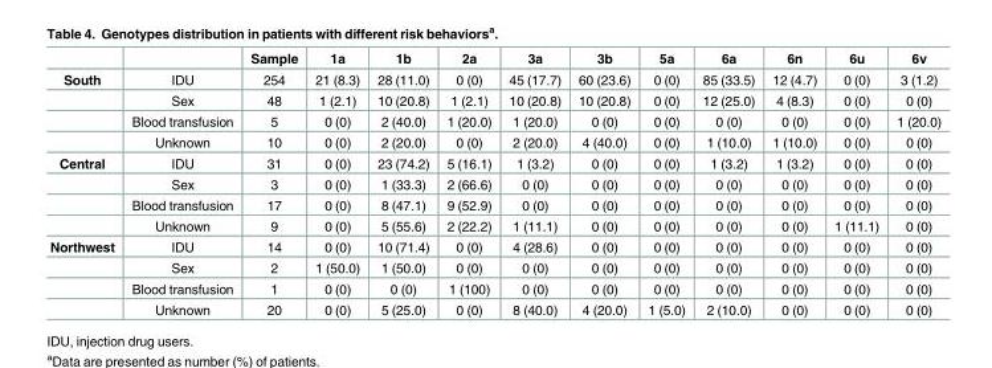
<table><thead><tr><td></td><td></td><td>Sample</td><td>1a</td><td>1b</td><td>2a</td><td>3a</td><td>3b</td><td>5a</td><td>6a</td><td>6n</td><td>6u</td><td>6v</td></tr></thead><tbody><tr><td rowspan="4">South</td><td>IDU</td><td>254</td><td>21 (8.3)</td><td>28 (11.0)</td><td>0 (0)</td><td>45 (17.7)</td><td>60 (23.6)</td><td>0 (0)</td><td>85 (33.5)</td><td>12 (4.7)</td><td>0 (0)</td><td>3 (1.2)</td></tr><tr><td>Sex</td><td>48</td><td>1 (2.1)</td><td>10 (20.8)</td><td>1 (2.1)</td><td>10 (20.8)</td><td>10 (20.8)</td><td>0 (0)</td><td>12 (25.0)</td><td>4 (8.3)</td><td>0 (0)</td><td>0 (0)</td></tr><tr><td>Blood transfusion</td><td>5</td><td>0 (0)</td><td>2 (40.0)</td><td>1 (20.0)</td><td>1 (20.0)</td><td>0 (0)</td><td>0 (0)</td><td>0 (0)</td><td>0 (0)</td><td>0 (0)</td><td>1 (20.0)</td></tr><tr><td>Unknown</td><td>10</td><td>0 (0)</td><td>2 (20.0)</td><td>0 (0)</td><td>2 (20.0)</td><td>4 (40.0)</td><td>0 (0)</td><td>1 (10.0)</td><td>1 (10.0)</td><td>0 (0)</td><td>0 (0)</td></tr><tr><td rowspan="4">Central</td><td>IDU</td><td>31</td><td>0 (0)</td><td>23 (74.2)</td><td>5 (16.1)</td><td>1 (3.2)</td><td>0 (0)</td><td>0 (0)</td><td>1 (3.2)</td><td>1 (3.2)</td><td>0 (0)</td><td>0 (0)</td></tr><tr><td>Sex</td><td>3</td><td>0 (0)</td><td>1 (33.3)</td><td>2 (66.6)</td><td>0 (0)</td><td>0 (0)</td><td>0 (0)</td><td>0 (0)</td><td>0 (0)</td><td>0 (0)</td><td>0 (0)</td></tr><tr><td>Blood transfusion</td><td>17</td><td>0 (0)</td><td>8 (47.1)</td><td>9 (52.9)</td><td>0 (0)</td><td>0 (0)</td><td>0 (0)</td><td>0 (0)</td><td>0 (0)</td><td>0 (0)</td><td>0 (0)</td></tr><tr><td>Unknown</td><td>9</td><td>0 (0)</td><td>5 (55.6)</td><td>2 (22.2)</td><td>1 (11.1)</td><td>0 (0)</td><td>0 (0)</td><td>0 (0)</td><td>0 (0)</td><td>1 (11.1)</td><td>0 (0)</td></tr><tr><td rowspan="4">Northwest</td><td>IDU</td><td>14</td><td>0 (0)</td><td>10 (71.4)</td><td>0 (0)</td><td>4 (28.6)</td><td>0 (0)</td><td>0 (0)</td><td>0 (0)</td><td>0 (0)</td><td>0 (0)</td><td>0 (0)</td></tr><tr><td>Sex</td><td>2</td><td>1 (50.0)</td><td>1 (50.0)</td><td>0 (0)</td><td>0 (0)</td><td>0 (0)</td><td>0 (0)</td><td>0 (0)</td><td>0 (0)</td><td>0 (0)</td><td>0 (0)</td></tr><tr><td>Blood transfusion</td><td>1</td><td>0 (0)</td><td>0 (0)</td><td>1 (100)</td><td>0 (0)</td><td>0 (0)</td><td>0 (0)</td><td>0 (0)</td><td>0 (0)</td><td>0 (0)</td><td>0 (0)</td></tr><tr><td>Unknown</td><td>20</td><td>0 (0)</td><td>5 (25.0)</td><td>0 (0)</td><td>8 (40.0)</td><td>4 (20.0)</td><td>1 (5.0)</td><td>2 (10.0)</td><td>0 (0)</td><td>0 (0)</td><td>0 (0)</td></tr></tbody></table>